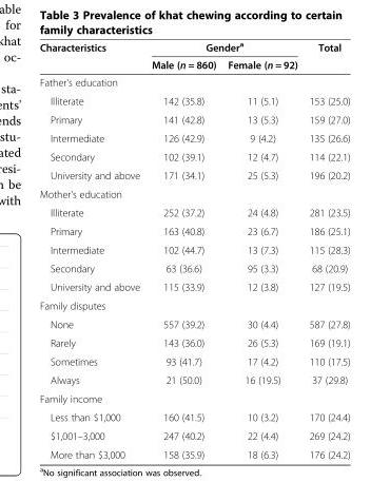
<table><thead><tr><td rowspan="2">Characteristics</td><td colspan="2">Gender<sup>a</sup></td><td rowspan="2">Total</td></tr><tr><td>Male (n = 860)</td><td>Female (n = 92)</td></tr></thead><tbody><tr><td colspan="4">Father&#x27;s education</td></tr><tr><td>Illiterate</td><td>142 (35.8)</td><td>11 (5.1)</td><td>153 (25.0)</td></tr><tr><td>Primary</td><td>141 (42.8)</td><td>13 (5.3)</td><td>159 (27.0)</td></tr><tr><td>Intermediate</td><td>126 (42.9)</td><td>9 (4.2)</td><td>135 (26.6)</td></tr><tr><td>Secondary</td><td>102 (39.1)</td><td>12 (4.7)</td><td>114 (22.1)</td></tr><tr><td>University and above</td><td>171 (34.1)</td><td>25 (5.3)</td><td>196 (20.2)</td></tr><tr><td colspan="4">Mother&#x27;s education</td></tr><tr><td>Illiterate</td><td>252 (37.2)</td><td>24 (4.8)</td><td>281 (23.5)</td></tr><tr><td>Primary</td><td>163 (40.8)</td><td>23 (6.7)</td><td>186 (25.1)</td></tr><tr><td>Intermediate</td><td>102 (44.7)</td><td>13 (7.3)</td><td>115 (28.3)</td></tr><tr><td>Secondary</td><td>63 (36.6)</td><td>95 (3.3)</td><td>68 (20.9)</td></tr><tr><td>University and above</td><td>115 (33.9)</td><td>12 (3.8)</td><td>127 (19.5)</td></tr><tr><td colspan="4">Family disputes</td></tr><tr><td>None</td><td>557 (39.2)</td><td>30 (4.4)</td><td>587 (27.8)</td></tr><tr><td>Rarely</td><td>143 (36.0)</td><td>26 (5.3)</td><td>169 (19.1)</td></tr><tr><td>Sometimes</td><td>93 (41.7)</td><td>17 (4.2)</td><td>110 (17.5)</td></tr><tr><td>Always</td><td>21 (50.0)</td><td>16 (19.5)</td><td>37 (29.8)</td></tr><tr><td colspan="4">Family income</td></tr><tr><td>Less than $1,000</td><td>160 (41.5)</td><td>10 (3.2)</td><td>170 (24.4)</td></tr><tr><td>$1,001–3,000</td><td>247 (40.2)</td><td>22 (4.4)</td><td>269 (24.2)</td></tr><tr><td>More than $3,000</td><td>158 (35.9)</td><td>18 (6.3)</td><td>176 (24.2)</td></tr></tbody></table>